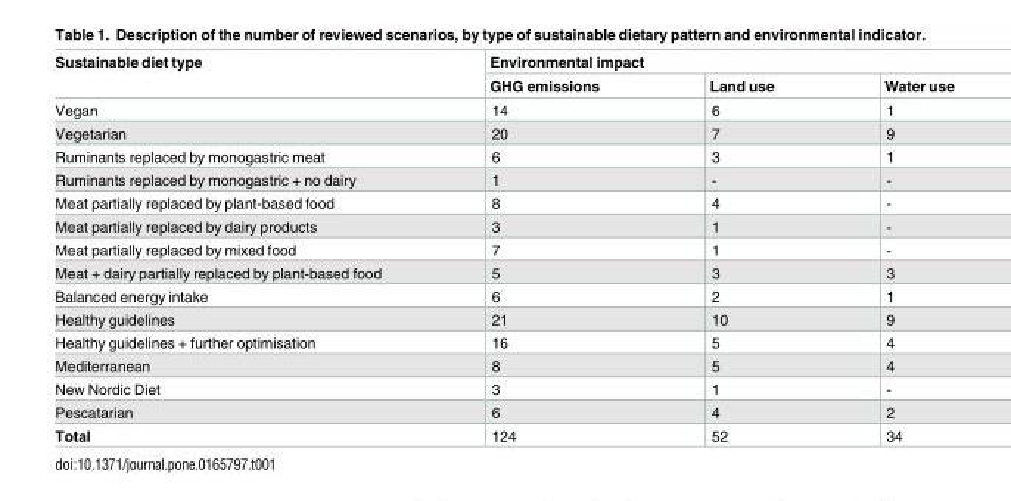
<table><thead><tr><td rowspan="2">Sustainable diet type</td><td colspan="3">Environmental impact</td></tr><tr><td>GHG emissions</td><td>Land use</td><td>Water use</td></tr></thead><tbody><tr><td>Vegan</td><td>14</td><td>6</td><td>1</td></tr><tr><td>Vegetarian</td><td>20</td><td>7</td><td>9</td></tr><tr><td>Ruminants replaced by monogastric meat</td><td>6</td><td>3</td><td>1</td></tr><tr><td>Ruminants replaced by monogastric + no dairy</td><td>1</td><td>-</td><td>-</td></tr><tr><td>Meat partially replaced by plant-based food</td><td>8</td><td>4</td><td>-</td></tr><tr><td>Meat partially replaced by dairy products</td><td>3</td><td>1</td><td>-</td></tr><tr><td>Meat partially replaced by mixed food</td><td>7</td><td>1</td><td>-</td></tr><tr><td>Meat + dairy partially replaced by plant-based food</td><td>5</td><td>3</td><td>3</td></tr><tr><td>Balanced energy intake</td><td>6</td><td>2</td><td>1</td></tr><tr><td>Healthy guidelines</td><td>21</td><td>10</td><td>9</td></tr><tr><td>Healthy guidelines + further optimisation</td><td>16</td><td>5</td><td>4</td></tr><tr><td>Mediterranean</td><td>8</td><td>5</td><td>4</td></tr><tr><td>New Nordic Diet</td><td>3</td><td>1</td><td>-</td></tr><tr><td>Pescatarian</td><td>6</td><td>4</td><td>2</td></tr><tr><td>Total</td><td>124</td><td>52</td><td>34</td></tr></tbody></table>